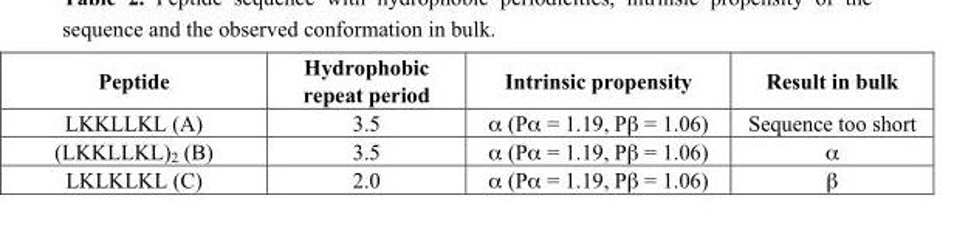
<table><thead><tr><td>Peptide</td><td>Hydrophobic repeat period</td><td>Intrinsic propensity</td><td>Result in bulk</td></tr></thead><tbody><tr><td>LKKLLKL (A)</td><td>3.5</td><td>α (Pα = 1.19, Pβ = 1.06)</td><td>Sequence too short</td></tr><tr><td>(LKKLLKL)<sub>2</sub> (B)</td><td>3.5</td><td>α (Pα = 1.19, Pβ = 1.06)</td><td>α</td></tr><tr><td>LKLKLKL (C)</td><td>2.0</td><td>α (Pα = 1.19, Pβ = 1.06)</td><td>β</td></tr></tbody></table>